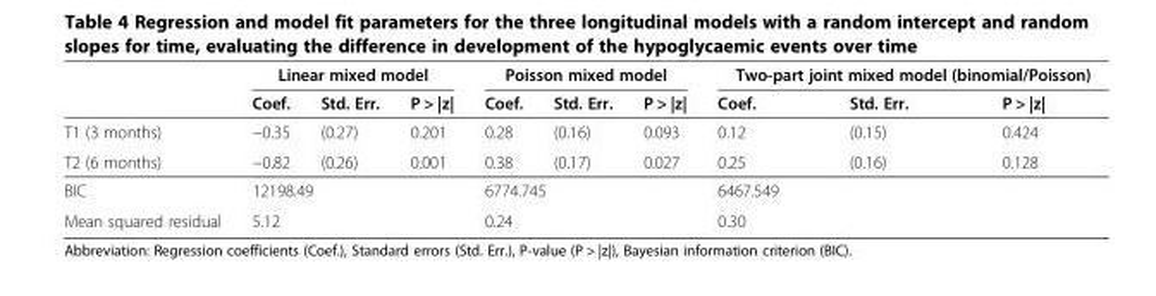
<table><thead><tr><td rowspan="2"></td><td colspan="3">Linear mixed model</td><td colspan="3">Poisson mixed model</td><td colspan="3">Two-part joint mixed model (binomial/Poisson)</td></tr><tr><td>Coef.</td><td>Std. Err.</td><td>P &gt; |z|</td><td>Coef.</td><td>Std. Err.</td><td>P &gt; |z|</td><td>Coef.</td><td>Std. Err.</td><td>P &gt; |z|</td></tr></thead><tbody><tr><td>T1 (3 months)</td><td>−0.35</td><td>(0.27)</td><td>0.201</td><td>0.28</td><td>(0.16)</td><td>0.093</td><td>0.12</td><td>(0.15)</td><td>0.424</td></tr><tr><td>T2 (6 months)</td><td>−0.82</td><td>(0.26)</td><td>0.001</td><td>0.38</td><td>(0.17)</td><td>0.027</td><td>0.25</td><td>(0.16)</td><td>0.128</td></tr><tr><td>BIC</td><td colspan="3">12198.49</td><td colspan="3">6774.745</td><td colspan="3">6467.549</td></tr><tr><td>Mean squared residual</td><td colspan="3">5.12</td><td colspan="3">0.24</td><td colspan="3">0.30</td></tr></tbody></table>